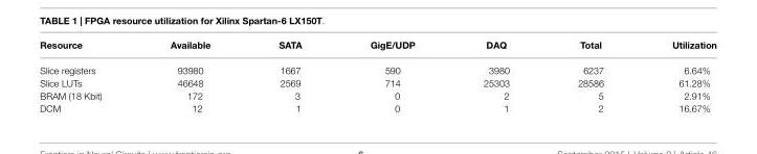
<table><thead><tr><td>Resource</td><td>Available</td><td>SATA</td><td>GigE/UDP</td><td>DAQ</td><td>Total</td><td>Utilization</td></tr></thead><tbody><tr><td>Slice registers</td><td>93980</td><td>1667</td><td>590</td><td>3980</td><td>6237</td><td>6.64%</td></tr><tr><td>Slice LUTs</td><td>46648</td><td>2569</td><td>714</td><td>25303</td><td>28586</td><td>61.28%</td></tr><tr><td>BRAM (18 Kbit)</td><td>172</td><td>3</td><td>0</td><td>2</td><td>5</td><td>2.91%</td></tr><tr><td>DCM</td><td>12</td><td>1</td><td>0</td><td>1</td><td>2</td><td>16.67%</td></tr></tbody></table>